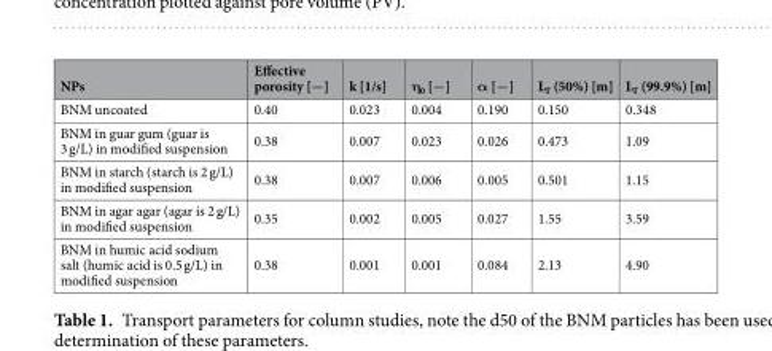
<table><thead><tr><td>NPs</td><td>Effective porosity [−]</td><td>k [1/s]</td><td>η<sub>0</sub> [−]</td><td>α [−]</td><td>L<sub>T</sub> (50%) [m]</td><td>L<sub>T</sub> (99.9%) [m]</td></tr></thead><tbody><tr><td>BNM uncoated</td><td>0.40</td><td>0.023</td><td>0.004</td><td>0.190</td><td>0.150</td><td>0.348</td></tr><tr><td>BNM in guar gum (guar is 3 g/L) in modified suspension</td><td>0.38</td><td>0.007</td><td>0.023</td><td>0.026</td><td>0.473</td><td>1.09</td></tr><tr><td>BNM in starch (starch is 2 g/L) in modified suspension</td><td>0.38</td><td>0.007</td><td>0.006</td><td>0.005</td><td>0.501</td><td>1.15</td></tr><tr><td>BNM in agar agar (agar is 2 g/L) in modified suspension</td><td>0.35</td><td>0.002</td><td>0.005</td><td>0.027</td><td>1.55</td><td>3.59</td></tr><tr><td>BNM in humic acid sodium salt (humic acid is 0.5 g/L) in modified suspension</td><td>0.38</td><td>0.001</td><td>0.001</td><td>0.084</td><td>2.13</td><td>4.90</td></tr></tbody></table>